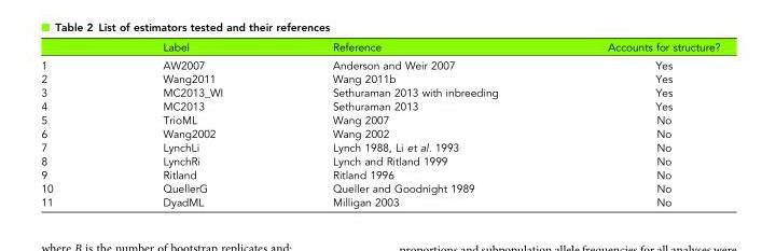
<table><thead><tr><td></td><td>Label</td><td>Reference</td><td>Accounts for structure?</td></tr></thead><tbody><tr><td>1</td><td>AW2007</td><td>Anderson and Weir 2007</td><td>Yes</td></tr><tr><td>2</td><td>Wang2011</td><td>Wang 2011b</td><td>Yes</td></tr><tr><td>3</td><td>MC2013_WI</td><td>Sethuraman 2013 with inbreeding</td><td>Yes</td></tr><tr><td>4</td><td>MC2013</td><td>Sethuraman 2013</td><td>Yes</td></tr><tr><td>5</td><td>TrioML</td><td>Wang 2007</td><td>No</td></tr><tr><td>6</td><td>Wang2002</td><td>Wang 2002</td><td>No</td></tr><tr><td>7</td><td>LynchLi</td><td>Lynch 1988, Li et al. 1993</td><td>No</td></tr><tr><td>8</td><td>LynchRi</td><td>Lynch and Ritland 1999</td><td>No</td></tr><tr><td>9</td><td>Ritland</td><td>Ritland 1996</td><td>No</td></tr><tr><td>10</td><td>QuellerG</td><td>Queller and Goodnight 1989</td><td>No</td></tr><tr><td>11</td><td>DyadML</td><td>Milligan 2003</td><td>No</td></tr></tbody></table>